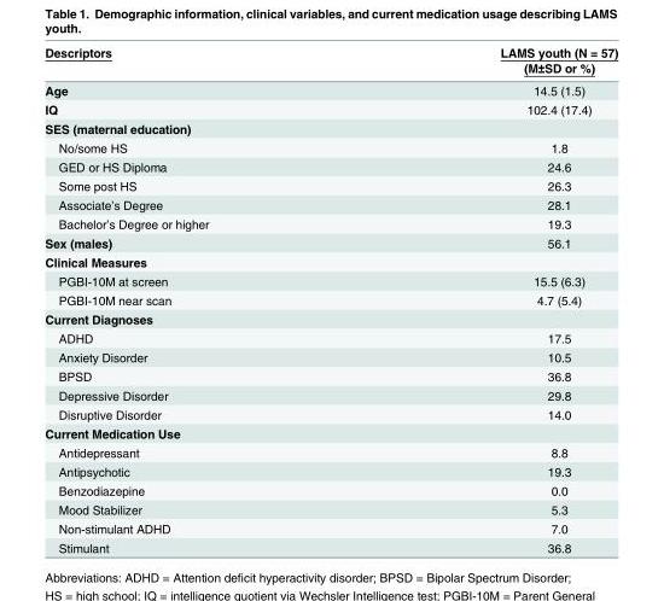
<table><thead><tr><td rowspan="2">Descriptors</td><td rowspan="2">LAMS youth (N = 57) (M±SD or %)</td></tr><tr></tr></thead><tbody><tr><td>Age</td><td>14.5 (1.5)</td></tr><tr><td>IQ</td><td>102.4 (17.4)</td></tr><tr><td colspan="2">SES (maternal education)</td></tr><tr><td>No/some HS</td><td>1.8</td></tr><tr><td>GED or HS Diploma</td><td>24.6</td></tr><tr><td>Some post HS</td><td>26.3</td></tr><tr><td>Associate’s Degree</td><td>28.1</td></tr><tr><td>Bachelor’s Degree or higher</td><td>19.3</td></tr><tr><td>Sex (males)</td><td>56.1</td></tr><tr><td colspan="2">Clinical Measures</td></tr><tr><td>PGBI-10M at screen</td><td>15.5 (6.3)</td></tr><tr><td>PGBI-10M near scan</td><td>4.7 (5.4)</td></tr><tr><td colspan="2">Current Diagnoses</td></tr><tr><td>ADHD</td><td>17.5</td></tr><tr><td>Anxiety Disorder</td><td>10.5</td></tr><tr><td>BPSD</td><td>36.8</td></tr><tr><td>Depressive Disorder</td><td>29.8</td></tr><tr><td>Disruptive Disorder</td><td>14.0</td></tr><tr><td colspan="2">Current Medication Use</td></tr><tr><td>Antidepressant</td><td>8.8</td></tr><tr><td>Antipsychotic</td><td>19.3</td></tr><tr><td>Benzodiazepine</td><td>0.0</td></tr><tr><td>Mood Stabilizer</td><td>5.3</td></tr><tr><td>Non-stimulant ADHD</td><td>7.0</td></tr><tr><td>Stimulant</td><td>36.8</td></tr></tbody></table>